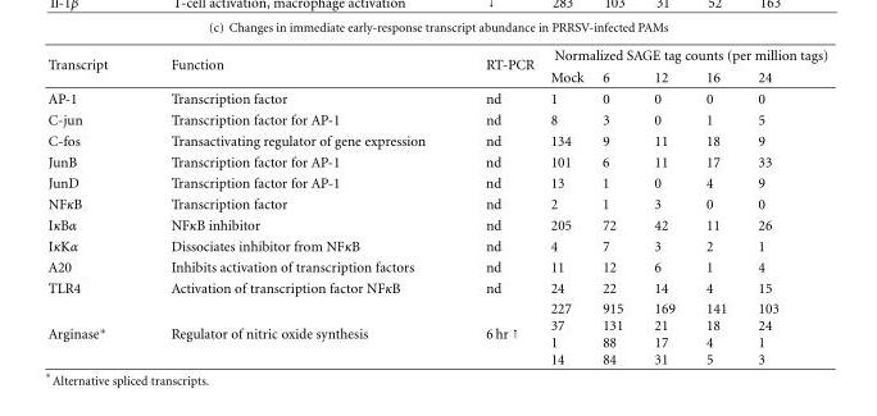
<table><tbody><tr><td rowspan="2">Transcript</td><td rowspan="2">Function</td><td rowspan="2">RT-PCR</td><td colspan="5">Normalized SAGE tag counts (per million tags)</td></tr><tr><td>Mock</td><td>6</td><td>12</td><td>16</td><td>24</td></tr><tr><td>AP-1</td><td>Transcription factor</td><td>nd</td><td>1</td><td>0</td><td>0</td><td>0</td><td>0</td></tr><tr><td>C-jun</td><td>Transcription factor for AP-1</td><td>nd</td><td>8</td><td>3</td><td>0</td><td>1</td><td>5</td></tr><tr><td>C-fos</td><td>Transactivating regulator of gene expression</td><td>nd</td><td>134</td><td>9</td><td>11</td><td>18</td><td>9</td></tr><tr><td>JunB</td><td>Transcription factor for AP-1</td><td>nd</td><td>101</td><td>6</td><td>11</td><td>17</td><td>33</td></tr><tr><td>JunD</td><td>Transcription factor for AP-1</td><td>nd</td><td>13</td><td>1</td><td>0</td><td>4</td><td>9</td></tr><tr><td>NFκB</td><td>Transcription factor</td><td>nd</td><td>2</td><td>1</td><td>3</td><td>0</td><td>0</td></tr><tr><td>IκBα</td><td>NFκB inhibitor</td><td>nd</td><td>205</td><td>72</td><td>42</td><td>11</td><td>26</td></tr><tr><td>IκKα</td><td>Dissociates inhibitor from NFκB</td><td>nd</td><td>4</td><td>7</td><td>3</td><td>2</td><td>1</td></tr><tr><td>A20</td><td>Inhibits activation of transcription factors</td><td>nd</td><td>11</td><td>12</td><td>6</td><td>1</td><td>4</td></tr><tr><td>TLR4</td><td>Activation of transcription factor NFκB</td><td>nd</td><td>24</td><td>22</td><td>14</td><td>4</td><td>15</td></tr><tr><td>Arginase∗</td><td>Regulator of nitric oxide synthesis</td><td>6 hr ↑</td><td>227 37 1 14</td><td>915 131 88 84</td><td>169 21 17 31</td><td>141 18 4 5</td><td>103 24 1 3</td></tr></tbody></table>